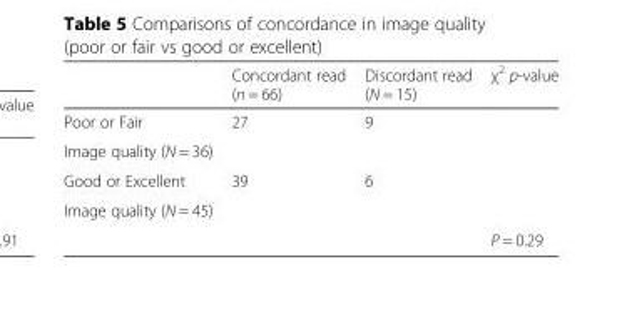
<table><thead><tr><td></td><td>Concordant read (n = 66)</td><td>Discordant read (N = 15)</td><td>χ<sup>2</sup> p-value</td></tr></thead><tbody><tr><td>Poor or Fair</td><td rowspan="2">27</td><td rowspan="2">9</td><td rowspan="2"></td></tr><tr><td>Image quality (N = 36)</td></tr><tr><td>Good or Excellent</td><td rowspan="2">39</td><td rowspan="2">6</td><td rowspan="2"></td></tr><tr><td rowspan="2">Image quality (N = 45)</td></tr><tr><td></td><td></td><td>P = 0.29</td></tr></tbody></table>